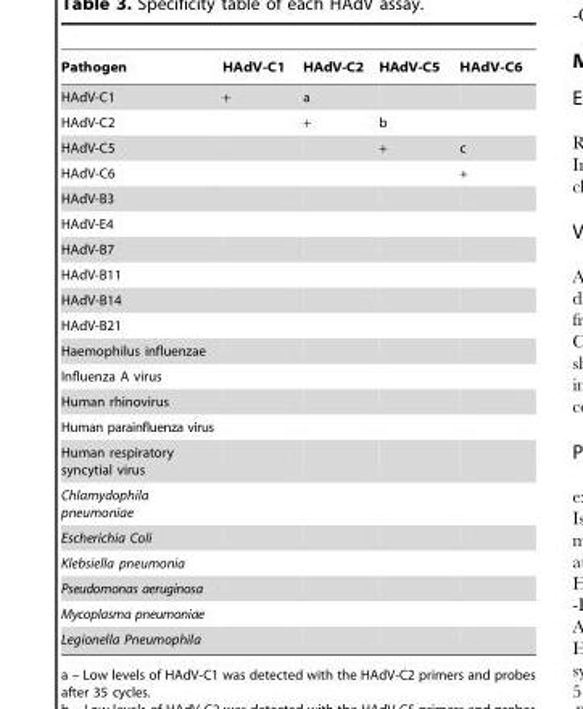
<table><thead><tr><td>Pathogen</td><td>HAdV-C1</td><td>HAdV-C2</td><td>HAdV-C5</td><td>HAdV-C6</td></tr></thead><tbody><tr><td>HAdV-C1</td><td>+</td><td>a</td><td></td><td></td></tr><tr><td>HAdV-C2</td><td></td><td>+</td><td>b</td><td></td></tr><tr><td>HAdV-C5</td><td></td><td></td><td>+</td><td>c</td></tr><tr><td>HAdV-C6</td><td></td><td></td><td></td><td>+</td></tr><tr><td colspan="5">HAdV-B3</td></tr><tr><td colspan="5">HAdV-E4</td></tr><tr><td colspan="5">HAdV-B7</td></tr><tr><td colspan="5">HAdV-B11</td></tr><tr><td colspan="5">HAdV-B14</td></tr><tr><td colspan="5">HAdV-B21</td></tr><tr><td colspan="5">Haemophilus influenzae</td></tr><tr><td colspan="5">Influenza A virus</td></tr><tr><td colspan="5">Human rhinovirus</td></tr><tr><td colspan="5">Human parainfluenza virus</td></tr><tr><td colspan="5">Human respiratory syncytial virus</td></tr><tr><td colspan="5">Chlamydophila pneumoniae</td></tr><tr><td colspan="5">Escherichia Coli</td></tr><tr><td colspan="5">Klebsiella pneumonia</td></tr><tr><td colspan="5">Pseudomonas aeruginosa</td></tr><tr><td colspan="5">Mycoplasma pneumoniae</td></tr><tr><td>Legionella Pneumophila</td><td></td><td></td><td></td><td></td></tr></tbody></table>